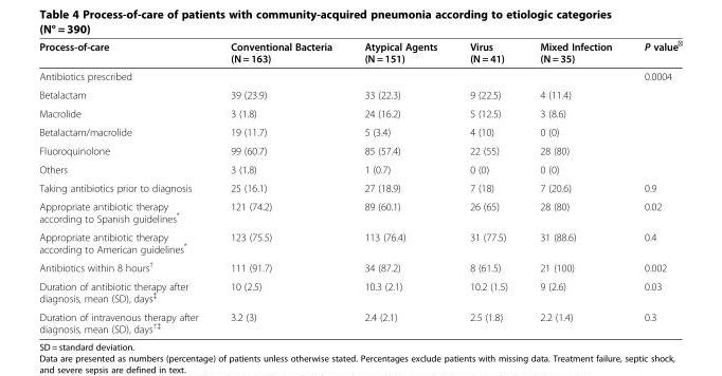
<table><thead><tr><td>Process-of-care</td><td>Conventional Bacteria (N = 163)</td><td>Atypical Agents (N = 151)</td><td>Virus (N = 41)</td><td>Mixed Infection (N = 35)</td><td>P value<sup>║</sup></td></tr></thead><tbody><tr><td>Antibiotics prescribed</td><td></td><td></td><td></td><td></td><td>0.0004</td></tr><tr><td>Betalactam</td><td>39 (23.9)</td><td>33 (22.3)</td><td>9 (22.5)</td><td>4 (11.4)</td><td></td></tr><tr><td>Macrolide</td><td>3 (1.8)</td><td>24 (16.2)</td><td>5 (12.5)</td><td>3 (8.6)</td><td></td></tr><tr><td>Betalactam/macrolide</td><td>19 (11.7)</td><td>5 (3.4)</td><td>4 (10)</td><td>0 (0)</td><td></td></tr><tr><td>Fluoroquinolone</td><td>99 (60.7)</td><td>85 (57.4)</td><td>22 (55)</td><td>28 (80)</td><td></td></tr><tr><td>Others</td><td>3 (1.8)</td><td>1 (0.7)</td><td>0 (0)</td><td>0 (0)</td><td></td></tr><tr><td>Taking antibiotics prior to diagnosis</td><td>25 (16.1)</td><td>27 (18.9)</td><td>7 (18)</td><td>7 (20.6)</td><td>0.9</td></tr><tr><td>Appropriate antibiotic therapy according to Spanish guidelines*</td><td>121 (74.2)</td><td>89 (60.1)</td><td>26 (65)</td><td>28 (80)</td><td>0.02</td></tr><tr><td>Appropriate antibiotic therapy according to American guidelines*</td><td>123 (75.5)</td><td>113 (76.4)</td><td>31 (77.5)</td><td>31 (88.6)</td><td>0.4</td></tr><tr><td>Antibiotics within 8 hours<sup>†</sup></td><td>111 (91.7)</td><td>34 (87.2)</td><td>8 (61.5)</td><td>21 (100)</td><td>0.002</td></tr><tr><td>Duration of antibiotic therapy after diagnosis, mean (SD), days<sup>‡</sup></td><td>10 (2.5)</td><td>10.3 (2.1)</td><td>10.2 (1.5)</td><td>9 (2.6)</td><td>0.03</td></tr><tr><td>Duration of intravenous therapy after diagnosis, mean (SD), days<sup>†‡</sup></td><td>3.2 (3)</td><td>2.4 (2.1)</td><td>2.5 (1.8)</td><td>2.2 (1.4)</td><td>0.3</td></tr></tbody></table>